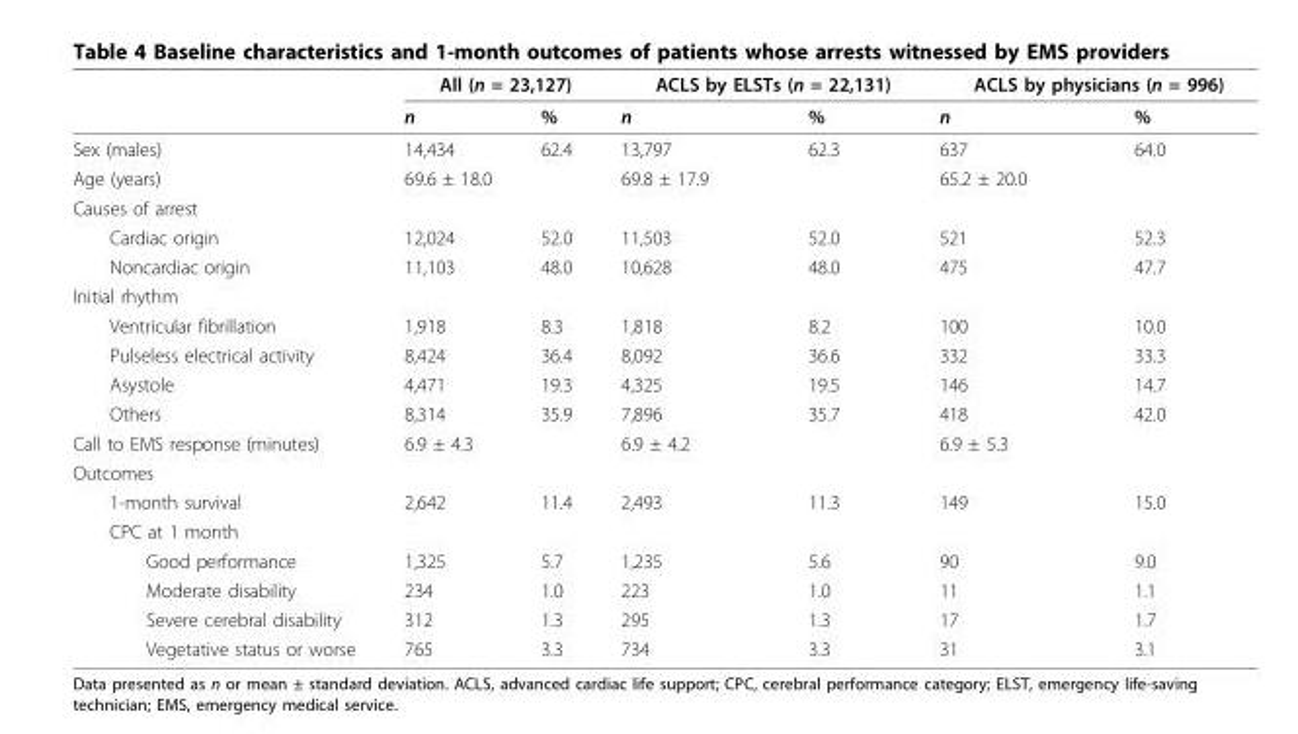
<table><thead><tr><td rowspan="2"></td><td colspan="2">All (n = 23,127)</td><td colspan="2">ACLS by ELSTs (n = 22,131)</td><td colspan="2">ACLS by physicians (n = 996)</td></tr><tr><td>n</td><td>%</td><td>n</td><td>%</td><td>n</td><td>%</td></tr></thead><tbody><tr><td>Sex (males)</td><td>14,434</td><td>62.4</td><td>13,797</td><td>62.3</td><td>637</td><td>64.0</td></tr><tr><td>Age (years)</td><td>69.6 ± 18.0</td><td></td><td>69.8 ± 17.9</td><td></td><td>65.2 ± 20.0</td><td></td></tr><tr><td colspan="7">Causes of arrest</td></tr><tr><td>Cardiac origin</td><td>12,024</td><td>52.0</td><td>11,503</td><td>52.0</td><td>521</td><td>52.3</td></tr><tr><td>Noncardiac origin</td><td>11,103</td><td>48.0</td><td>10,628</td><td>48.0</td><td>475</td><td>47.7</td></tr><tr><td colspan="7">Initial rhythm</td></tr><tr><td>Ventricular fibrillation</td><td>1,918</td><td>8.3</td><td>1,818</td><td>8.2</td><td>100</td><td>10.0</td></tr><tr><td>Pulseless electrical activity</td><td>8,424</td><td>36.4</td><td>8,092</td><td>36.6</td><td>332</td><td>33.3</td></tr><tr><td>Asystole</td><td>4,471</td><td>19.3</td><td>4,325</td><td>19.5</td><td>146</td><td>14.7</td></tr><tr><td>Others</td><td>8,314</td><td>35.9</td><td>7,896</td><td>35.7</td><td>418</td><td>42.0</td></tr><tr><td>Call to EMS response (minutes)</td><td>6.9 ± 4.3</td><td></td><td>6.9 ± 4.2</td><td></td><td>6.9 ± 5.3</td><td></td></tr><tr><td colspan="7">Outcomes</td></tr><tr><td>1-month survival</td><td>2,642</td><td>11.4</td><td>2,493</td><td>11.3</td><td>149</td><td>15.0</td></tr><tr><td colspan="7">CPC at 1 month</td></tr><tr><td>Good performance</td><td>1,325</td><td>5.7</td><td>1,235</td><td>5.6</td><td>90</td><td>9.0</td></tr><tr><td>Moderate disability</td><td>234</td><td>1.0</td><td>223</td><td>1.0</td><td>11</td><td>1.1</td></tr><tr><td>Severe cerebral disability</td><td>312</td><td>1.3</td><td>295</td><td>1.3</td><td>17</td><td>1.7</td></tr><tr><td>Vegetative status or worse</td><td>765</td><td>3.3</td><td>734</td><td>3.3</td><td>31</td><td>3.1</td></tr></tbody></table>